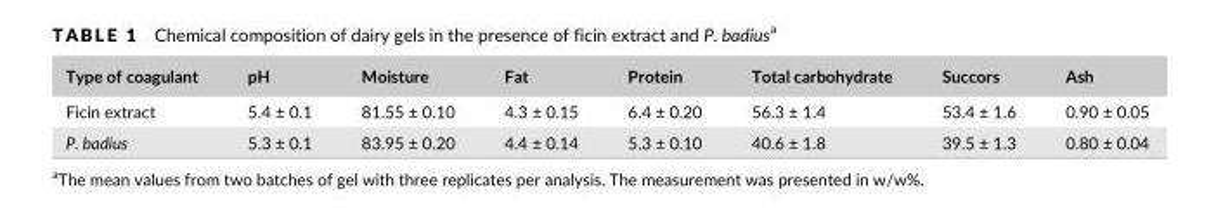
<table><thead><tr><td>Type of coagulant</td><td>pH</td><td>Moisture</td><td>Fat</td><td>Protein</td><td>Total carbohydrate</td><td>Succors</td><td>Ash</td></tr></thead><tbody><tr><td>Ficin extract</td><td>5.4 ± 0.1</td><td>81.55 ± 0.10</td><td>4.3 ± 0.15</td><td>6.4 ± 0.20</td><td>56.3 ± 1.4</td><td>53.4 ± 1.6</td><td>0.90 ± 0.05</td></tr><tr><td>P. badius</td><td>5.3 ± 0.1</td><td>83.95 ± 0.20</td><td>4.4 ± 0.14</td><td>5.3 ± 0.10</td><td>40.6 ± 1.8</td><td>39.5 ± 1.3</td><td>0.80 ± 0.04</td></tr></tbody></table>